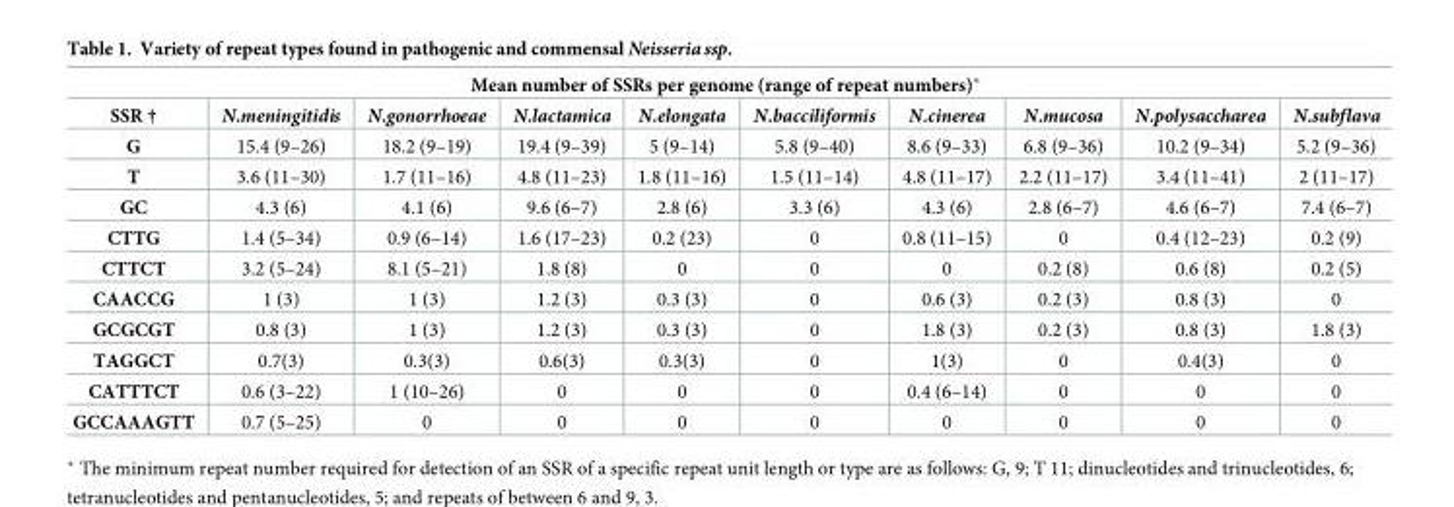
<table><thead><tr><td colspan="10">Mean number of SSRs per genome (range of repeat numbers)*</td></tr><tr><td>SSR †</td><td>N.meningitidis</td><td>N.gonorrhoeae</td><td>N.lactamica</td><td>N.elongata</td><td>N.bacciliformis</td><td>N.cinerea</td><td>N.mucosa</td><td>N.polysaccharea</td><td>N.subflava</td></tr></thead><tbody><tr><td>G</td><td>15.4 (9–26)</td><td>18.2 (9–19)</td><td>19.4 (9–39)</td><td>5 (9–14)</td><td>5.8 (9–40)</td><td>8.6 (9–33)</td><td>6.8 (9–36)</td><td>10.2 (9–34)</td><td>5.2 (9–36)</td></tr><tr><td>T</td><td>3.6 (11–30)</td><td>1.7 (11–16)</td><td>4.8 (11–23)</td><td>1.8 (11–16)</td><td>1.5 (11–14)</td><td>4.8 (11–17)</td><td>2.2 (11–17)</td><td>3.4 (11–41)</td><td>2 (11–17)</td></tr><tr><td>GC</td><td>4.3 (6)</td><td>4.1 (6)</td><td>9.6 (6–7)</td><td>2.8 (6)</td><td>3.3 (6)</td><td>4.3 (6)</td><td>2.8 (6–7)</td><td>4.6 (6–7)</td><td>7.4 (6–7)</td></tr><tr><td>CTTG</td><td>1.4 (5–34)</td><td>0.9 (6–14)</td><td>1.6 (17–23)</td><td>0.2 (23)</td><td>0</td><td>0.8 (11–15)</td><td>0</td><td>0.4 (12–23)</td><td>0.2 (9)</td></tr><tr><td>CTTCT</td><td>3.2 (5–24)</td><td>8.1 (5–21)</td><td>1.8 (8)</td><td>0</td><td>0</td><td>0</td><td>0.2 (8)</td><td>0.6 (8)</td><td>0.2 (5)</td></tr><tr><td>CAACCG</td><td>1 (3)</td><td>1 (3)</td><td>1.2 (3)</td><td>0.3 (3)</td><td>0</td><td>0.6 (3)</td><td>0.2 (3)</td><td>0.8 (3)</td><td>0</td></tr><tr><td>GCGCGT</td><td>0.8 (3)</td><td>1 (3)</td><td>1.2 (3)</td><td>0.3 (3)</td><td>0</td><td>1.8 (3)</td><td>0.2 (3)</td><td>0.8 (3)</td><td>1.8 (3)</td></tr><tr><td>TAGGCT</td><td>0.7(3)</td><td>0.3(3)</td><td>0.6(3)</td><td>0.3(3)</td><td>0</td><td>1(3)</td><td>0</td><td>0.4(3)</td><td>0</td></tr><tr><td>CATTTCT</td><td>0.6 (3–22)</td><td>1 (10–26)</td><td>0</td><td>0</td><td>0</td><td>0.4 (6–14)</td><td>0</td><td>0</td><td>0</td></tr><tr><td>GCCAAAGTT</td><td>0.7 (5–25)</td><td>0</td><td>0</td><td>0</td><td>0</td><td>0</td><td>0</td><td>0</td><td>0</td></tr></tbody></table>